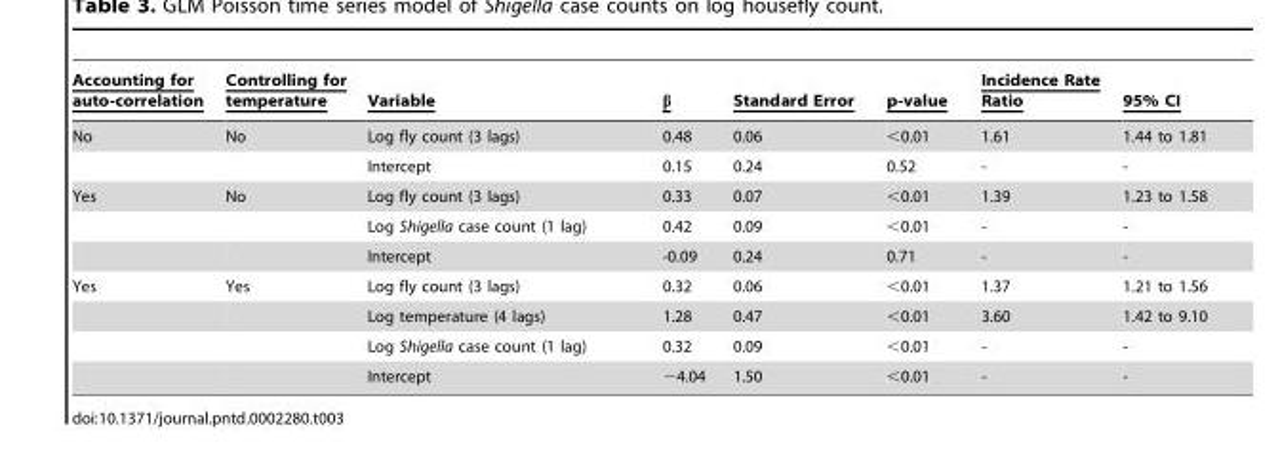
<table><thead><tr><td>Accounting for auto-correlation</td><td>Controlling for temperature</td><td>Variable</td><td>β</td><td>Standard Error</td><td>p-value</td><td>Incidence Rate Ratio</td><td>95% CI</td></tr></thead><tbody><tr><td rowspan="2">No</td><td>No</td><td>Log fly count (3 lags)</td><td>0.48</td><td>0.06</td><td>&lt;0.01</td><td>1.61</td><td>1.44 to 1.81</td></tr><tr><td></td><td>Intercept</td><td>0.15</td><td>0.24</td><td>0.52</td><td>-</td><td>-</td></tr><tr><td rowspan="3">Yes</td><td>No</td><td>Log fly count (3 lags)</td><td>0.33</td><td>0.07</td><td>&lt;0.01</td><td>1.39</td><td>1.23 to 1.58</td></tr><tr><td></td><td>Log Shigella case count (1 lag)</td><td>0.42</td><td>0.09</td><td>&lt;0.01</td><td>-</td><td>-</td></tr><tr><td></td><td>Intercept</td><td>-0.09</td><td>0.24</td><td>0.71</td><td>-</td><td>-</td></tr><tr><td rowspan="4">Yes</td><td>Yes</td><td>Log fly count (3 lags)</td><td>0.32</td><td>0.06</td><td>&lt;0.01</td><td>1.37</td><td>1.21 to 1.56</td></tr><tr><td></td><td>Log temperature (4 lags)</td><td>1.28</td><td>0.47</td><td>&lt;0.01</td><td>3.60</td><td>1.42 to 9.10</td></tr><tr><td></td><td>Log Shigella case count (1 lag)</td><td>0.32</td><td>0.09</td><td>&lt;0.01</td><td>-</td><td>-</td></tr><tr><td></td><td>Intercept</td><td>−4.04</td><td>1.50</td><td>&lt;0.01</td><td>-</td><td>-</td></tr></tbody></table>